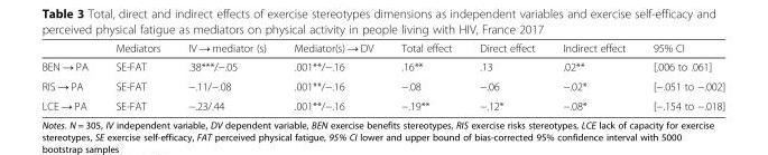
<table><thead><tr><td></td><td>Mediators</td><td>IV → mediator (s)</td><td>Mediator(s) → DV</td><td>Total effect</td><td>Direct effect</td><td>Indirect effect</td><td>95% CI</td></tr></thead><tbody><tr><td>BEN → PA</td><td>SE-FAT</td><td>.38***/−.05</td><td>.001**/−.16</td><td>.16**</td><td>.13</td><td>.02**</td><td>[.006 to .061]</td></tr><tr><td>RIS → PA</td><td>SE-FAT</td><td>−.11/−.08</td><td>.001**/−.16</td><td>−.08</td><td>−.06</td><td>−.02*</td><td>[−.051 to −.002]</td></tr><tr><td>LCE → PA</td><td>SE-FAT</td><td>−.23/.44</td><td>.001**/−.16</td><td>−.19**</td><td>−.12*</td><td>−.08*</td><td>[−.154 to −.018]</td></tr></tbody></table>